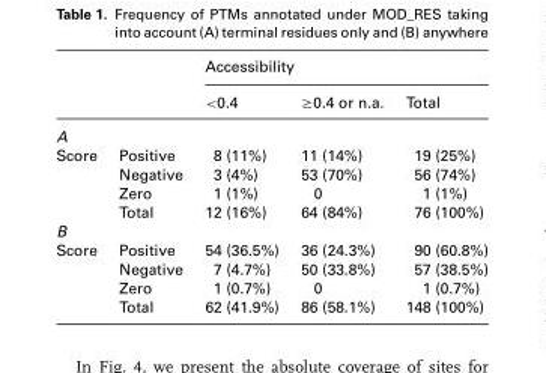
<table><thead><tr><td rowspan="2"></td><td rowspan="2"></td><td colspan="3">Accessibility</td></tr><tr><td>&lt;0.4</td><td>≥0.4 or n.a.</td><td>Total</td></tr></thead><tbody><tr><td colspan="5">A</td></tr><tr><td rowspan="4">Score</td><td>Positive</td><td>8 (11%)</td><td>11 (14%)</td><td>19 (25%)</td></tr><tr><td>Negative</td><td>3 (4%)</td><td>53 (70%)</td><td>56 (74%)</td></tr><tr><td>Zero</td><td>1 (1%)</td><td>0</td><td>1 (1%)</td></tr><tr><td>Total</td><td>12 (16%)</td><td>64 (84%)</td><td>76 (100%)</td></tr><tr><td colspan="5">B</td></tr><tr><td rowspan="4">Score</td><td>Positive</td><td>54 (36.5%)</td><td>36 (24.3%)</td><td>90 (60.8%)</td></tr><tr><td>Negative</td><td>7 (4.7%)</td><td>50 (33.8%)</td><td>57 (38.5%)</td></tr><tr><td>Zero</td><td>1 (0.7%)</td><td>0</td><td>1 (0.7%)</td></tr><tr><td>Total</td><td>62 (41.9%)</td><td>86 (58.1%)</td><td>148 (100%)</td></tr></tbody></table>